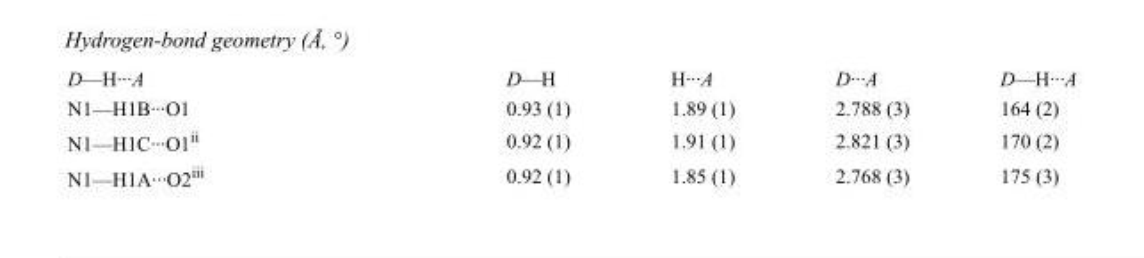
<table><tbody><tr><td>D—H···A</td><td>D—H</td><td>H···A</td><td>D···A</td><td>D—H···A</td></tr><tr><td>N1—H1B···O1</td><td>0.93 (1)</td><td>1.89 (1)</td><td>2.788 (3)</td><td>164 (2)</td></tr><tr><td>N1—H1C···O1<sup>ii</sup></td><td>0.92 (1)</td><td>1.91 (1)</td><td>2.821 (3)</td><td>170 (2)</td></tr><tr><td>N1—H1A···O2<sup>iii</sup></td><td>0.92 (1)</td><td>1.85 (1)</td><td>2.768 (3)</td><td>175 (3)</td></tr></tbody></table>